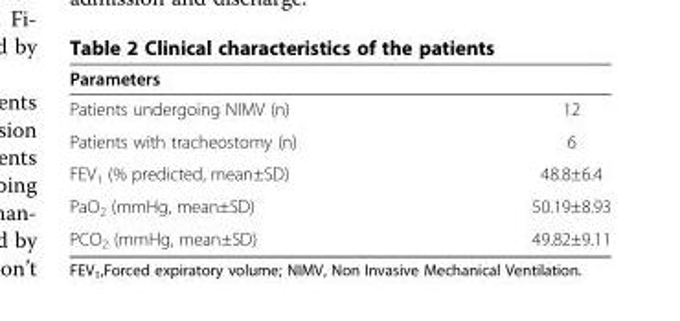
<table><thead><tr><td>Parameters</td><td></td></tr></thead><tbody><tr><td>Patients undergoing NIMV (n)</td><td>12</td></tr><tr><td>Patients with tracheostomy (n)</td><td>6</td></tr><tr><td>FEV<sub>1</sub> (% predicted, mean±SD)</td><td>48.8±6.4</td></tr><tr><td>PaO<sub>2</sub> (mmHg, mean±SD)</td><td>50.19±8.93</td></tr><tr><td>PCO<sub>2</sub> (mmHg, mean±SD)</td><td>49.82±9.11</td></tr></tbody></table>